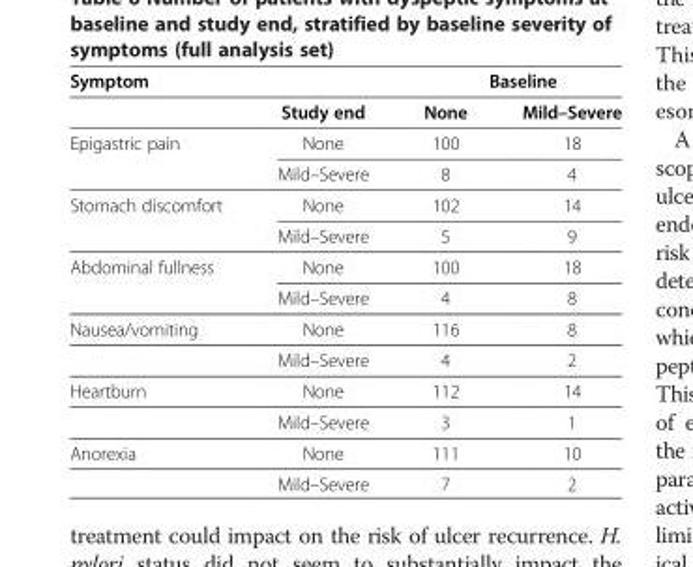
<table><thead><tr><td rowspan="2">Symptom</td><td rowspan="2">Study end</td><td colspan="2">Baseline</td></tr><tr><td>None</td><td>Mild–Severe</td></tr></thead><tbody><tr><td rowspan="2">Epigastric pain</td><td>None</td><td>100</td><td>18</td></tr><tr><td>Mild–Severe</td><td>8</td><td>4</td></tr><tr><td rowspan="2">Stomach discomfort</td><td>None</td><td>102</td><td>14</td></tr><tr><td>Mild–Severe</td><td>5</td><td>9</td></tr><tr><td rowspan="2">Abdominal fullness</td><td>None</td><td>100</td><td>18</td></tr><tr><td>Mild–Severe</td><td>4</td><td>8</td></tr><tr><td rowspan="2">Nausea/vomiting</td><td>None</td><td>116</td><td>8</td></tr><tr><td>Mild–Severe</td><td>4</td><td>2</td></tr><tr><td rowspan="2">Heartburn</td><td>None</td><td>112</td><td>14</td></tr><tr><td>Mild–Severe</td><td>3</td><td>1</td></tr><tr><td rowspan="2">Anorexia</td><td>None</td><td>111</td><td>10</td></tr><tr><td>Mild–Severe</td><td>7</td><td>2</td></tr></tbody></table>